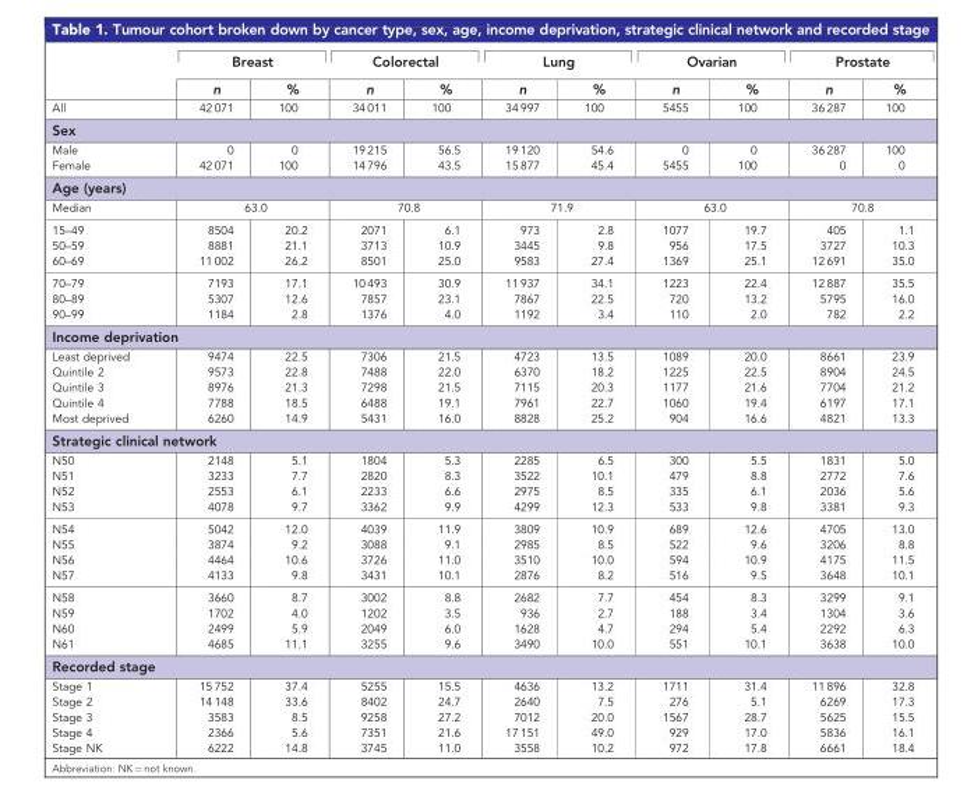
<table><thead><tr><td rowspan="2"></td><td colspan="2">Breast</td><td colspan="2">Colorectal</td><td colspan="2">Lung</td><td colspan="2">Ovarian</td><td colspan="2">Prostate</td></tr><tr><td>n</td><td>%</td><td>n</td><td>%</td><td>n</td><td>%</td><td>n</td><td>%</td><td>n</td><td>%</td></tr></thead><tbody><tr><td>All</td><td>42 071</td><td>100</td><td>34 011</td><td>100</td><td>34 997</td><td>100</td><td>5455</td><td>100</td><td>36 287</td><td>100</td></tr><tr><td colspan="11">Sex</td></tr><tr><td>Male</td><td>0</td><td>0</td><td>19 215</td><td>56.5</td><td>19 120</td><td>54.6</td><td>0</td><td>0</td><td>36 287</td><td>100</td></tr><tr><td>Female</td><td>42 071</td><td>100</td><td>14 796</td><td>43.5</td><td>15 877</td><td>45.4</td><td>5455</td><td>100</td><td>0</td><td>0</td></tr><tr><td colspan="11">Age (years)</td></tr><tr><td>Median</td><td colspan="2">63.0</td><td colspan="2">70.8</td><td colspan="2">71.9</td><td colspan="2">63.0</td><td colspan="2">70.8</td></tr><tr><td>15–49</td><td>8504</td><td>20.2</td><td>2071</td><td>6.1</td><td>973</td><td>2.8</td><td>1077</td><td>19.7</td><td>405</td><td>1.1</td></tr><tr><td>50–59</td><td>8881</td><td>21.1</td><td>3713</td><td>10.9</td><td>3445</td><td>9.8</td><td>956</td><td>17.5</td><td>3727</td><td>10.3</td></tr><tr><td>60–69</td><td>11 002</td><td>26.2</td><td>8501</td><td>25.0</td><td>9583</td><td>27.4</td><td>1369</td><td>25.1</td><td>12 691</td><td>35.0</td></tr><tr><td>70–79</td><td>7193</td><td>17.1</td><td>10 493</td><td>30.9</td><td>11 937</td><td>34.1</td><td>1223</td><td>22.4</td><td>12 887</td><td>35.5</td></tr><tr><td>80–89</td><td>5307</td><td>12.6</td><td>7857</td><td>23.1</td><td>7867</td><td>22.5</td><td>720</td><td>13.2</td><td>5795</td><td>16.0</td></tr><tr><td>90–99</td><td>1184</td><td>2.8</td><td>1376</td><td>4.0</td><td>1192</td><td>3.4</td><td>110</td><td>2.0</td><td>782</td><td>2.2</td></tr><tr><td colspan="11">Income deprivation</td></tr><tr><td>Least deprived</td><td>9474</td><td>22.5</td><td>7306</td><td>21.5</td><td>4723</td><td>13.5</td><td>1089</td><td>20.0</td><td>8661</td><td>23.9</td></tr><tr><td>Quintile 2</td><td>9573</td><td>22.8</td><td>7488</td><td>22.0</td><td>6370</td><td>18.2</td><td>1225</td><td>22.5</td><td>8904</td><td>24.5</td></tr><tr><td>Quintile 3</td><td>8976</td><td>21.3</td><td>7298</td><td>21.5</td><td>7115</td><td>20.3</td><td>1177</td><td>21.6</td><td>7704</td><td>21.2</td></tr><tr><td>Quintile 4</td><td>7788</td><td>18.5</td><td>6488</td><td>19.1</td><td>7961</td><td>22.7</td><td>1060</td><td>19.4</td><td>6197</td><td>17.1</td></tr><tr><td>Most deprived</td><td>6260</td><td>14.9</td><td>5431</td><td>16.0</td><td>8828</td><td>25.2</td><td>904</td><td>16.6</td><td>4821</td><td>13.3</td></tr><tr><td colspan="11">Strategic clinical network</td></tr><tr><td>N50</td><td>2148</td><td>5.1</td><td>1804</td><td>5.3</td><td>2285</td><td>6.5</td><td>300</td><td>5.5</td><td>1831</td><td>5.0</td></tr><tr><td>N51</td><td>3233</td><td>7.7</td><td>2820</td><td>8.3</td><td>3522</td><td>10.1</td><td>479</td><td>8.8</td><td>2772</td><td>7.6</td></tr><tr><td>N52</td><td>2553</td><td>6.1</td><td>2233</td><td>6.6</td><td>2975</td><td>8.5</td><td>335</td><td>6.1</td><td>2036</td><td>5.6</td></tr><tr><td>N53</td><td>4078</td><td>9.7</td><td>3362</td><td>9.9</td><td>4299</td><td>12.3</td><td>533</td><td>9.8</td><td>3381</td><td>9.3</td></tr><tr><td>N54</td><td>5042</td><td>12.0</td><td>4039</td><td>11.9</td><td>3809</td><td>10.9</td><td>689</td><td>12.6</td><td>4705</td><td>13.0</td></tr><tr><td>N55</td><td>3874</td><td>9.2</td><td>3088</td><td>9.1</td><td>2985</td><td>8.5</td><td>522</td><td>9.6</td><td>3206</td><td>8.8</td></tr><tr><td>N56</td><td>4464</td><td>10.6</td><td>3726</td><td>11.0</td><td>3510</td><td>10.0</td><td>594</td><td>10.9</td><td>4175</td><td>11.5</td></tr><tr><td>N57</td><td>4133</td><td>9.8</td><td>3431</td><td>10.1</td><td>2876</td><td>8.2</td><td>516</td><td>9.5</td><td>3648</td><td>10.1</td></tr><tr><td>N58</td><td>3660</td><td>8.7</td><td>3002</td><td>8.8</td><td>2682</td><td>7.7</td><td>454</td><td>8.3</td><td>3299</td><td>9.1</td></tr><tr><td>N59</td><td>1702</td><td>4.0</td><td>1202</td><td>3.5</td><td>936</td><td>2.7</td><td>188</td><td>3.4</td><td>1304</td><td>3.6</td></tr><tr><td>N60</td><td>2499</td><td>5.9</td><td>2049</td><td>6.0</td><td>1628</td><td>4.7</td><td>294</td><td>5.4</td><td>2292</td><td>6.3</td></tr><tr><td>N61</td><td>4685</td><td>11.1</td><td>3255</td><td>9.6</td><td>3490</td><td>10.0</td><td>551</td><td>10.1</td><td>3638</td><td>10.0</td></tr><tr><td colspan="11">Recorded stage</td></tr><tr><td>Stage 1</td><td>15 752</td><td>37.4</td><td>5255</td><td>15.5</td><td>4636</td><td>13.2</td><td>1711</td><td>31.4</td><td>11 896</td><td>32.8</td></tr><tr><td>Stage 2</td><td>14 148</td><td>33.6</td><td>8402</td><td>24.7</td><td>2640</td><td>7.5</td><td>276</td><td>5.1</td><td>6269</td><td>17.3</td></tr><tr><td>Stage 3</td><td>3583</td><td>8.5</td><td>9258</td><td>27.2</td><td>7012</td><td>20.0</td><td>1567</td><td>28.7</td><td>5625</td><td>15.5</td></tr><tr><td>Stage 4</td><td>2366</td><td>5.6</td><td>7351</td><td>21.6</td><td>17 151</td><td>49.0</td><td>929</td><td>17.0</td><td>5836</td><td>16.1</td></tr><tr><td>Stage NK</td><td>6222</td><td>14.8</td><td>3745</td><td>11.0</td><td>3558</td><td>10.2</td><td>972</td><td>17.8</td><td>6661</td><td>18.4</td></tr></tbody></table>